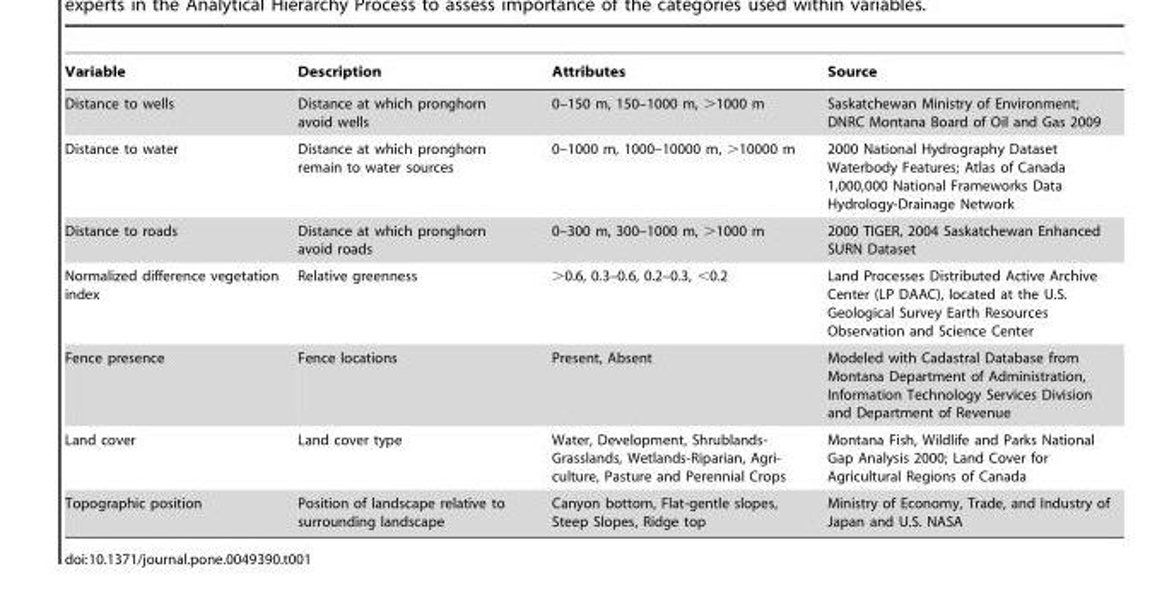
<table><thead><tr><td>Variable</td><td>Description</td><td>Attributes</td><td>Source</td></tr></thead><tbody><tr><td>Distance to wells</td><td>Distance at which pronghorn avoid wells</td><td>0–150 m, 150–1000 m, &gt;1000 m</td><td>Saskatchewan Ministry of Environment; DNRC Montana Board of Oil and Gas 2009</td></tr><tr><td>Distance to water</td><td>Distance at which pronghorn remain to water sources</td><td>0–1000 m, 1000–10000 m, &gt;10000 m</td><td>2000 National Hydrography Dataset Waterbody Features; Atlas of Canada 1,000,000 National Frameworks Data Hydrology-Drainage Network</td></tr><tr><td>Distance to roads</td><td>Distance at which pronghorn avoid roads</td><td>0–300 m, 300–1000 m, &gt;1000 m</td><td>2000 TIGER, 2004 Saskatchewan Enhanced SURN Dataset</td></tr><tr><td>Normalized difference vegetation index</td><td>Relative greenness</td><td>&gt;0.6, 0.3–0.6, 0.2–0.3, &lt;0.2</td><td>Land Processes Distributed Active Archive Center (LP DAAC), located at the U.S. Geological Survey Earth Resources Observation and Science Center</td></tr><tr><td>Fence presence</td><td>Fence locations</td><td>Present, Absent</td><td>Modeled with Cadastral Database from Montana Department of Administration, Information Technology Services Division and Department of Revenue</td></tr><tr><td>Land cover</td><td>Land cover type</td><td>Water, Development, Shrublands- Grasslands, Wetlands-Riparian, Agri- culture, Pasture and Perennial Crops</td><td>Montana Fish, Wildlife and Parks National Gap Analysis 2000; Land Cover for Agricultural Regions of Canada</td></tr><tr><td>Topographic position</td><td>Position of landscape relative to surrounding landscape</td><td>Canyon bottom, Flat-gentle slopes, Steep Slopes, Ridge top</td><td>Ministry of Economy, Trade, and Industry of Japan and U.S. NASA</td></tr></tbody></table>